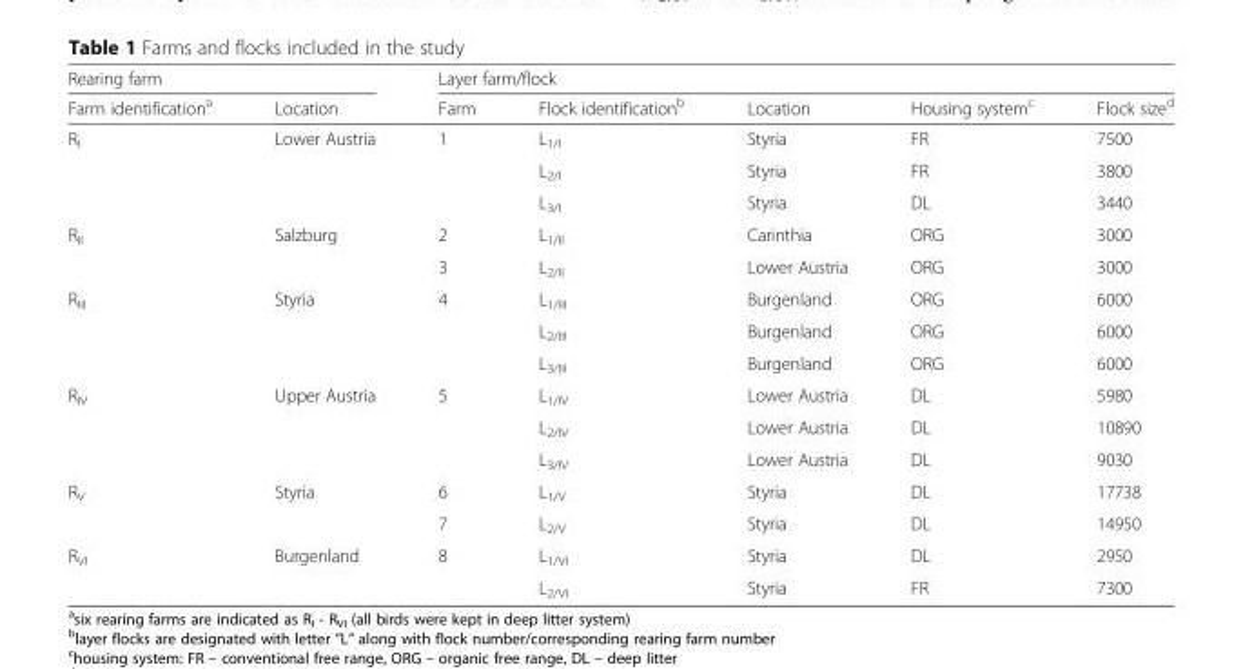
<table><thead><tr><td colspan="2">Rearing farm</td><td colspan="5">Layer farm/flock</td></tr><tr><td>Farm identification<sup>a</sup></td><td>Location</td><td>Farm</td><td>Flock identification<sup>b</sup></td><td>Location</td><td>Housing system<sup>c</sup></td><td>Flock size<sup>d</sup></td></tr></thead><tbody><tr><td rowspan="3">R<sub>I</sub></td><td rowspan="3">Lower Austria</td><td rowspan="3">1</td><td>L<sub>1/I</sub></td><td>Styria</td><td>FR</td><td>7500</td></tr><tr><td>L<sub>2/I</sub></td><td>Styria</td><td>FR</td><td>3800</td></tr><tr><td>L<sub>3/I</sub></td><td>Styria</td><td>DL</td><td>3440</td></tr><tr><td rowspan="2">R<sub>II</sub></td><td rowspan="2">Salzburg</td><td>2</td><td>L<sub>1/II</sub></td><td>Carinthia</td><td>ORG</td><td>3000</td></tr><tr><td>3</td><td>L<sub>2/II</sub></td><td>Lower Austria</td><td>ORG</td><td>3000</td></tr><tr><td rowspan="3">R<sub>III</sub></td><td rowspan="3">Styria</td><td rowspan="3">4</td><td>L<sub>1/III</sub></td><td>Burgenland</td><td>ORG</td><td>6000</td></tr><tr><td>L<sub>2/III</sub></td><td>Burgenland</td><td>ORG</td><td>6000</td></tr><tr><td>L<sub>3/III</sub></td><td>Burgenland</td><td>ORG</td><td>6000</td></tr><tr><td rowspan="3">R<sub>IV</sub></td><td rowspan="3">Upper Austria</td><td rowspan="3">5</td><td>L<sub>1/IV</sub></td><td>Lower Austria</td><td>DL</td><td>5980</td></tr><tr><td>L<sub>2/IV</sub></td><td>Lower Austria</td><td>DL</td><td>10890</td></tr><tr><td>L<sub>3/IV</sub></td><td>Lower Austria</td><td>DL</td><td>9030</td></tr><tr><td rowspan="2">R<sub>V</sub></td><td rowspan="2">Styria</td><td>6</td><td>L<sub>1/V</sub></td><td>Styria</td><td>DL</td><td>17738</td></tr><tr><td>7</td><td>L<sub>2/V</sub></td><td>Styria</td><td>DL</td><td>14950</td></tr><tr><td rowspan="2">R<sub>VI</sub></td><td rowspan="2">Burgenland</td><td rowspan="2">8</td><td>L<sub>1/VI</sub></td><td>Styria</td><td>DL</td><td>2950</td></tr><tr><td>L<sub>2/VI</sub></td><td>Styria</td><td>FR</td><td>7300</td></tr></tbody></table>